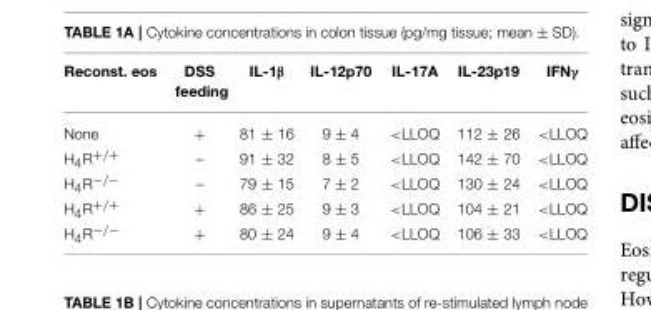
<table><thead><tr><td>Reconst. eos</td><td>DSS feeding</td><td>IL-1β</td><td>IL-12p70</td><td>IL-17A</td><td>IL-23p19</td><td>IFNγ</td></tr></thead><tbody><tr><td>None</td><td>+</td><td>81 ± 16</td><td>9 ± 4</td><td>&lt;LLOQ</td><td>112 ± 26</td><td>&lt;LLOQ</td></tr><tr><td>H<sub>4</sub>R<sup>+/+</sup></td><td>–</td><td>91 ± 32</td><td>8 ± 5</td><td>&lt;LLOQ</td><td>142 ± 70</td><td>&lt;LLOQ</td></tr><tr><td>H<sub>4</sub>R<sup>−/−</sup></td><td>–</td><td>79 ± 15</td><td>7 ± 2</td><td>&lt;LLOQ</td><td>130 ± 24</td><td>&lt;LLOQ</td></tr><tr><td>H<sub>4</sub>R<sup>+/+</sup></td><td>+</td><td>86 ± 25</td><td>9 ± 3</td><td>&lt;LLOQ</td><td>104 ± 21</td><td>&lt;LLOQ</td></tr><tr><td>H<sub>4</sub>R<sup>−/−</sup></td><td>+</td><td>80 ± 24</td><td>9 ± 4</td><td>&lt;LLOQ</td><td>106 ± 33</td><td>&lt;LLOQ</td></tr></tbody></table>